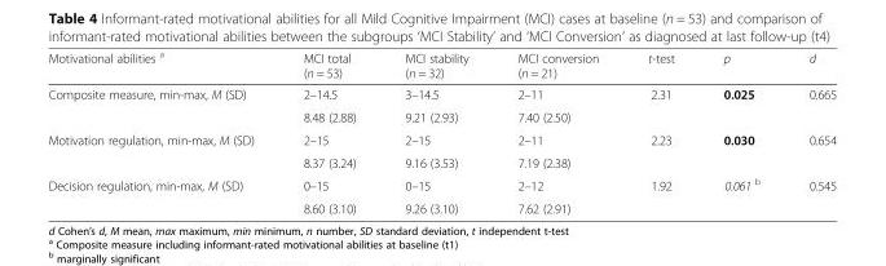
<table><thead><tr><td>Motivational abilities <sup>a</sup></td><td>MCI total (n = 53)</td><td>MCI stability (n = 32)</td><td>MCI conversion (n = 21)</td><td>t-test</td><td>p</td><td>d</td></tr></thead><tbody><tr><td rowspan="2">Composite measure, min-max, M (SD)</td><td>2–14.5</td><td>3–14.5</td><td>2–11</td><td rowspan="2">2.31</td><td rowspan="2">0.025</td><td rowspan="2">0.665</td></tr><tr><td>8.48 (2.88)</td><td>9.21 (2.93)</td><td>7.40 (2.50)</td></tr><tr><td rowspan="2">Motivation regulation, min-max, M (SD)</td><td>2–15</td><td>2–15</td><td>2–11</td><td rowspan="2">2.23</td><td rowspan="2">0.030</td><td rowspan="2">0.654</td></tr><tr><td>8.37 (3.24)</td><td>9.16 (3.53)</td><td>7.19 (2.38)</td></tr><tr><td rowspan="2">Decision regulation, min-max, M (SD)</td><td>0–15</td><td>0–15</td><td>2–12</td><td rowspan="2">1.92</td><td rowspan="2">0.061 <sup>b</sup></td><td rowspan="2">0.545</td></tr><tr><td>8.60 (3.10)</td><td>9.26 (3.10)</td><td>7.62 (2.91)</td></tr></tbody></table>